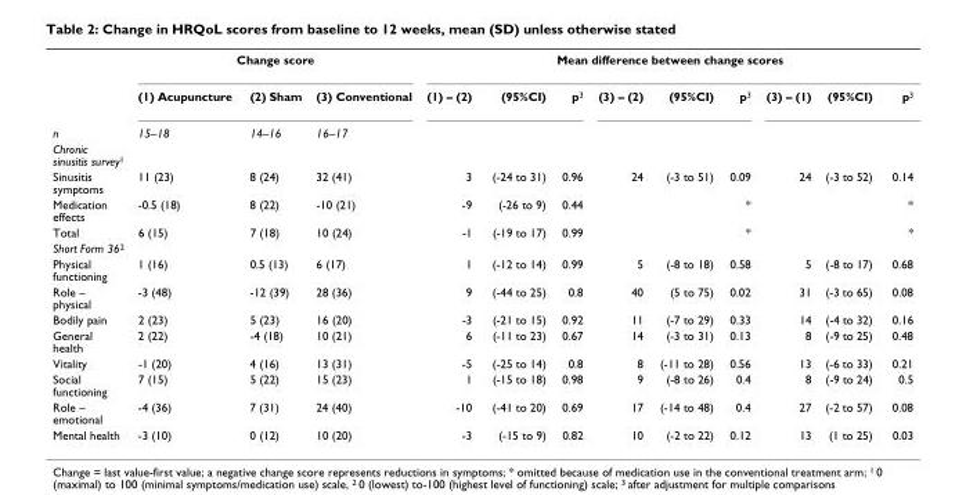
<table><thead><tr><td rowspan="2"></td><td colspan="3">Change score</td><td colspan="9">Mean difference between change scores</td></tr><tr><td>(1) Acupuncture</td><td>(2) Sham</td><td>(3) Conventional</td><td>(1) – (2)</td><td>(95%CI)</td><td>p<sup>3</sup></td><td>(3) – (2)</td><td>(95%CI)</td><td>p<sup>3</sup></td><td>(3) – (1)</td><td>(95%CI)</td><td>p<sup>3</sup></td></tr></thead><tbody><tr><td>n</td><td>15–18</td><td>14–16</td><td>16–17</td><td></td><td></td><td></td><td></td><td></td><td></td><td></td><td></td><td></td></tr><tr><td colspan="13">Chronic sinusitis survey<sup>1</sup></td></tr><tr><td>Sinusitis symptoms</td><td>11 (23)</td><td>8 (24)</td><td>32 (41)</td><td>3</td><td>(-24 to 31)</td><td>0.96</td><td>24</td><td>(-3 to 51)</td><td>0.09</td><td>24</td><td>(-3 to 52)</td><td>0.14</td></tr><tr><td>Medication effects</td><td>-0.5 (18)</td><td>8 (22)</td><td>-10 (21)</td><td>-9</td><td>(-26 to 9)</td><td>0.44</td><td></td><td></td><td>*</td><td></td><td></td><td>*</td></tr><tr><td>Total</td><td>6 (15)</td><td>7 (18)</td><td>10 (24)</td><td>-1</td><td>(-19 to 17)</td><td>0.99</td><td></td><td></td><td>*</td><td></td><td></td><td>*</td></tr><tr><td colspan="13">Short Form 36<sup>2</sup></td></tr><tr><td>Physical functioning</td><td>1 (16)</td><td>0.5 (13)</td><td>6 (17)</td><td>1</td><td>(-12 to 14)</td><td>0.99</td><td>5</td><td>(-8 to 18)</td><td>0.58</td><td>5</td><td>(-8 to 17)</td><td>0.68</td></tr><tr><td>Role – physical</td><td>-3 (48)</td><td>-12 (39)</td><td>28 (36)</td><td>9</td><td>(-44 to 25)</td><td>0.8</td><td>40</td><td>(5 to 75)</td><td>0.02</td><td>31</td><td>(-3 to 65)</td><td>0.08</td></tr><tr><td>Bodily pain</td><td>2 (23)</td><td>5 (23)</td><td>16 (20)</td><td>-3</td><td>(-21 to 15)</td><td>0.92</td><td>11</td><td>(-7 to 29)</td><td>0.33</td><td>14</td><td>(-4 to 32)</td><td>0.16</td></tr><tr><td>General health</td><td>2 (22)</td><td>-4 (18)</td><td>10 (21)</td><td>6</td><td>(-11 to 23)</td><td>0.67</td><td>14</td><td>(-3 to 31)</td><td>0.13</td><td>8</td><td>(-9 to 25)</td><td>0.48</td></tr><tr><td>Vitality</td><td>-1 (20)</td><td>4 (16)</td><td>13 (31)</td><td>-5</td><td>(-25 to 14)</td><td>0.8</td><td>8</td><td>(-11 to 28)</td><td>0.56</td><td>13</td><td>(-6 to 33)</td><td>0.21</td></tr><tr><td>Social functioning</td><td>7 (15)</td><td>5 (22)</td><td>15 (23)</td><td>1</td><td>(-15 to 18)</td><td>0.98</td><td>9</td><td>(-8 to 26)</td><td>0.4</td><td>8</td><td>(-9 to 24)</td><td>0.5</td></tr><tr><td>Role – emotional</td><td>-4 (36)</td><td>7 (31)</td><td>24 (40)</td><td>-10</td><td>(-41 to 20)</td><td>0.69</td><td>17</td><td>(-14 to 48)</td><td>0.4</td><td>27</td><td>(-2 to 57)</td><td>0.08</td></tr><tr><td>Mental health</td><td>-3 (10)</td><td>0 (12)</td><td>10 (20)</td><td>-3</td><td>(-15 to 9)</td><td>0.82</td><td>10</td><td>(-2 to 22)</td><td>0.12</td><td>13</td><td>(1 to 25)</td><td>0.03</td></tr></tbody></table>